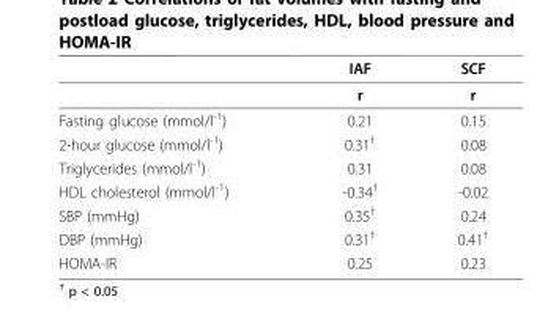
<table><thead><tr><td></td><td>IAF</td><td>SCF</td></tr></thead><tbody><tr><td></td><td>r</td><td>r</td></tr><tr><td>Fasting glucose (mmol/l<sup>-1</sup>)</td><td>0.21</td><td>0.15</td></tr><tr><td>2-hour glucose (mmol/l<sup>-1</sup>)</td><td>0.31<sup>†</sup></td><td>0.08</td></tr><tr><td>Triglycerides (mmol/l<sup>-1</sup>)</td><td>0.31</td><td>0.08</td></tr><tr><td>HDL cholesterol (mmol/l<sup>-1</sup>)</td><td>-0.34<sup>†</sup></td><td>-0.02</td></tr><tr><td>SBP (mmHg)</td><td>0.35<sup>†</sup></td><td>0.24</td></tr><tr><td>DBP (mmHg)</td><td>0.31<sup>†</sup></td><td>0.41<sup>†</sup></td></tr><tr><td>HOMA-IR</td><td>0.25</td><td>0.23</td></tr></tbody></table>